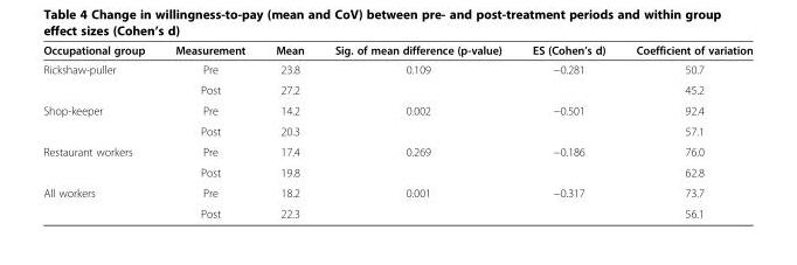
<table><thead><tr><td>Occupational group</td><td>Measurement</td><td>Mean</td><td>Sig. of mean difference (p-value)</td><td>ES (Cohen’s d)</td><td>Coefficient of variation</td></tr></thead><tbody><tr><td rowspan="2">Rickshaw-puller</td><td>Pre</td><td>23.8</td><td rowspan="2">0.109</td><td rowspan="2">−0.281</td><td>50.7</td></tr><tr><td>Post</td><td>27.2</td><td>45.2</td></tr><tr><td rowspan="2">Shop-keeper</td><td>Pre</td><td>14.2</td><td rowspan="2">0.002</td><td rowspan="2">−0.501</td><td>92.4</td></tr><tr><td>Post</td><td>20.3</td><td>57.1</td></tr><tr><td rowspan="2">Restaurant workers</td><td>Pre</td><td>17.4</td><td rowspan="2">0.269</td><td rowspan="2">−0.186</td><td>76.0</td></tr><tr><td>Post</td><td>19.8</td><td>62.8</td></tr><tr><td rowspan="2">All workers</td><td>Pre</td><td>18.2</td><td>0.001</td><td>−0.317</td><td>73.7</td></tr><tr><td>Post</td><td>22.3</td><td></td><td></td><td>56.1</td></tr></tbody></table>